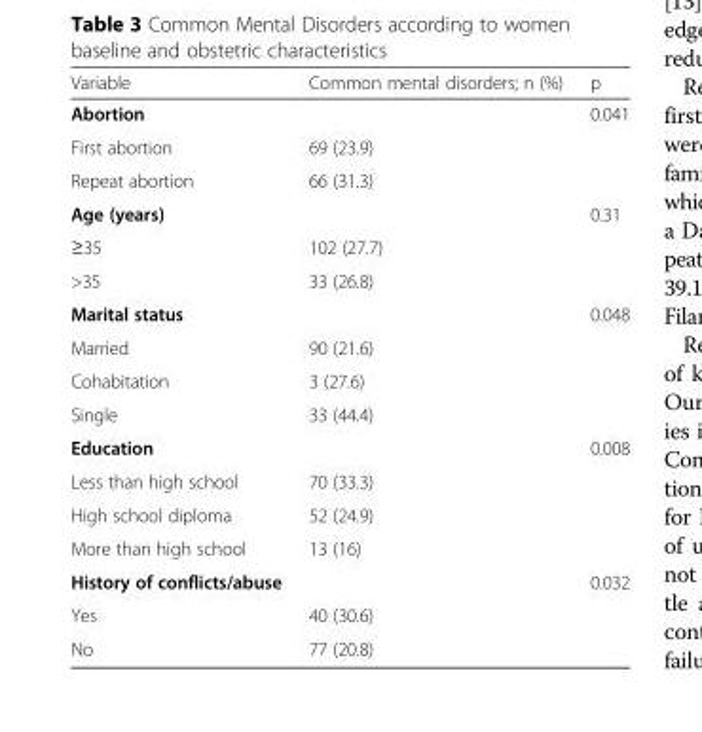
<table><thead><tr><td>Variable</td><td>Common mental disorders; n (%)</td><td>p</td></tr></thead><tbody><tr><td>Abortion</td><td></td><td>0.041</td></tr><tr><td>First abortion</td><td>69 (23.9)</td><td></td></tr><tr><td>Repeat abortion</td><td>66 (31.3)</td><td></td></tr><tr><td>Age (years)</td><td></td><td>0.31</td></tr><tr><td>≥35</td><td>102 (27.7)</td><td></td></tr><tr><td>&gt;35</td><td>33 (26.8)</td><td></td></tr><tr><td>Marital status</td><td></td><td>0.048</td></tr><tr><td>Married</td><td>90 (21.6)</td><td></td></tr><tr><td>Cohabitation</td><td>3 (27.6)</td><td></td></tr><tr><td>Single</td><td>33 (44.4)</td><td></td></tr><tr><td>Education</td><td></td><td>0.008</td></tr><tr><td>Less than high school</td><td>70 (33.3)</td><td></td></tr><tr><td>High school diploma</td><td>52 (24.9)</td><td></td></tr><tr><td>More than high school</td><td>13 (16)</td><td></td></tr><tr><td>History of conflicts/abuse</td><td></td><td>0.032</td></tr><tr><td>Yes</td><td>40 (30.6)</td><td></td></tr><tr><td>No</td><td>77 (20.8)</td><td></td></tr></tbody></table>